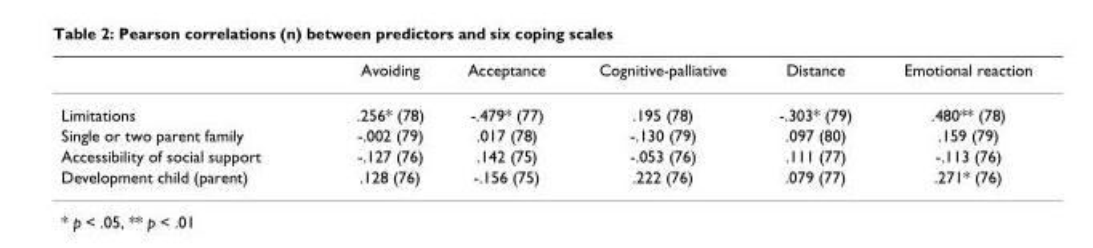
<table><thead><tr><td></td><td>Avoiding</td><td>Acceptance</td><td>Cognitive-palliative</td><td>Distance</td><td>Emotional reaction</td></tr></thead><tbody><tr><td>Limitations</td><td>.256* (78)</td><td>-.479* (77)</td><td>.195 (78)</td><td>-.303* (79)</td><td>.480** (78)</td></tr><tr><td>Single or two parent family</td><td>-.002 (79)</td><td>.017 (78)</td><td>-.130 (79)</td><td>.097 (80)</td><td>.159 (79)</td></tr><tr><td>Accessibility of social support</td><td>-.127 (76)</td><td>.142 (75)</td><td>-.053 (76)</td><td>.111 (77)</td><td>-.113 (76)</td></tr><tr><td>Development child (parent)</td><td>.128 (76)</td><td>-.156 (75)</td><td>.222 (76)</td><td>.079 (77)</td><td>.271* (76)</td></tr></tbody></table>